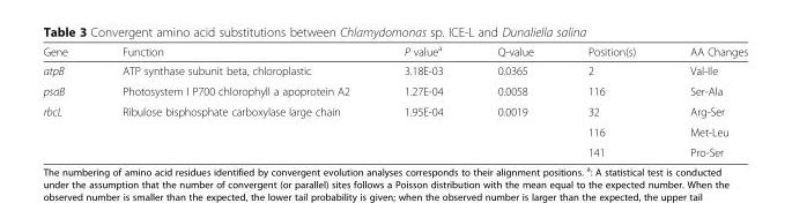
<table><thead><tr><td>Gene</td><td>Function</td><td>P value<sup>a</sup></td><td>Q-value</td><td>Position(s)</td><td>AA Changes</td></tr></thead><tbody><tr><td>atpB</td><td>ATP synthase subunit beta, chloroplastic</td><td>3.18E-03</td><td>0.0365</td><td>2</td><td>Val-Ile</td></tr><tr><td>psaB</td><td>Photosystem I P700 chlorophyll a apoprotein A2</td><td>1.27E-04</td><td>0.0058</td><td>116</td><td>Ser-Ala</td></tr><tr><td rowspan="3">rbcL</td><td>Ribulose bisphosphate carboxylase large chain</td><td>1.95E-04</td><td>0.0019</td><td>32</td><td>Arg-Ser</td></tr><tr><td></td><td></td><td></td><td>116</td><td>Met-Leu</td></tr><tr><td></td><td></td><td></td><td>141</td><td>Pro-Ser</td></tr></tbody></table>